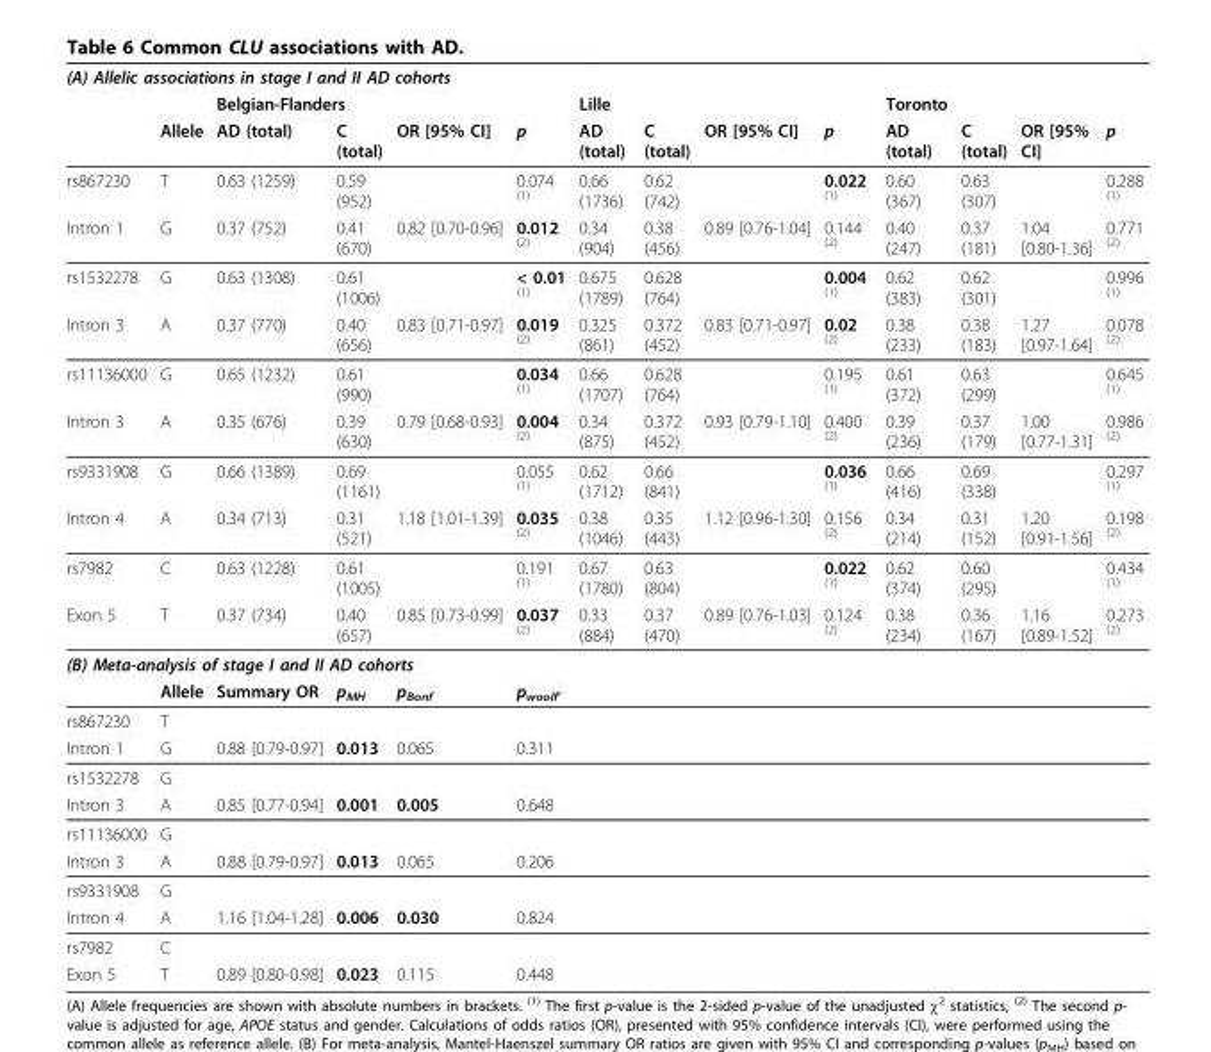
<table><thead><tr><td colspan="5">(A) Allelic associations in stage I and II AD cohorts</td><td rowspan="3">p</td><td rowspan="3">Lille AD (total)</td><td rowspan="3">C (total)</td><td rowspan="3">OR [95% CI]</td><td rowspan="3">p</td><td rowspan="3">Toronto AD (total)</td><td rowspan="3">C (total)</td><td rowspan="3">OR [95% CI]</td><td rowspan="3">p</td></tr><tr><td rowspan="2"></td><td rowspan="2">Allele</td><td colspan="2">Belgian-Flanders</td><td rowspan="2">OR [95% CI]</td></tr><tr><td>AD (total)</td><td>C (total)</td></tr></thead><tbody><tr><td>rs867230</td><td>T</td><td>0.63 (1259)</td><td>0.59 (952)</td><td></td><td>0.074 <sup>(1)</sup></td><td>0.66 (1736)</td><td>0.62 (742)</td><td></td><td>0.022 <sup>(1)</sup></td><td>0.60 (367)</td><td>0.63 (307)</td><td></td><td>0.288 <sup>(1)</sup></td></tr><tr><td>Intron 1</td><td>G</td><td>0.37 (752)</td><td>0.41 (670)</td><td>0.82 [0.70-0.96]</td><td>0.012 <sup>(2)</sup></td><td>0.34 (904)</td><td>0.38 (456)</td><td>0.89 [0.76-1.04]</td><td>0.144 <sup>(2)</sup></td><td>0.40 (247)</td><td>0.37 (181)</td><td>1.04 [0.80-1.36]</td><td>0.771 <sup>(2)</sup></td></tr><tr><td>rs1532278</td><td>G</td><td>0.63 (1308)</td><td>0.61 (1006)</td><td></td><td>&lt; 0.01 <sup>(1)</sup></td><td>0.675 (1789)</td><td>0.628 (764)</td><td></td><td>0.004 <sup>(1)</sup></td><td>0.62 (383)</td><td>0.62 (301)</td><td></td><td>0.996 <sup>(1)</sup></td></tr><tr><td>Intron 3</td><td>A</td><td>0.37 (770)</td><td>0.40 (656)</td><td>0.83 [0.71-0.97]</td><td>0.019 <sup>(2)</sup></td><td>0.325 (861)</td><td>0.372 (452)</td><td>0.83 [0.71-0.97]</td><td>0.02 <sup>(2)</sup></td><td>0.38 (233)</td><td>0.38 (183)</td><td>1.27 [0.97-1.64]</td><td>0.078 <sup>(2)</sup></td></tr><tr><td>rs11136000</td><td>G</td><td>0.65 (1232)</td><td>0.61 (990)</td><td></td><td>0.034 <sup>(1)</sup></td><td>0.66 (1707)</td><td>0.628 (764)</td><td></td><td>0.195 <sup>(1)</sup></td><td>0.61 (372)</td><td>0.63 (299)</td><td></td><td>0.645 <sup>(1)</sup></td></tr><tr><td>Intron 3</td><td>A</td><td>0.35 (676)</td><td>0.39 (630)</td><td>0.79 [0.68-0.93]</td><td>0.004 <sup>(2)</sup></td><td>0.34 (875)</td><td>0.372 (452)</td><td>0.93 [0.79-1.10]</td><td>0.400 <sup>(2)</sup></td><td>0.39 (236)</td><td>0.37 (179)</td><td>1.00 [0.77-1.31]</td><td>0.986 <sup>(2)</sup></td></tr><tr><td>rs9331908</td><td>G</td><td>0.66 (1389)</td><td>0.69 (1161)</td><td></td><td>0.055 <sup>(1)</sup></td><td>0.62 (1712)</td><td>0.66 (841)</td><td></td><td>0.036 <sup>(1)</sup></td><td>0.66 (416)</td><td>0.69 (338)</td><td></td><td>0.297 <sup>(1)</sup></td></tr><tr><td>Intron 4</td><td>A</td><td>0.34 (713)</td><td>0.31 (521)</td><td>1.18 [1.01-1.39]</td><td>0.035 <sup>(2)</sup></td><td>0.38 (1046)</td><td>0.35 (443)</td><td>1.12 [0.96-1.30]</td><td>0.156 <sup>(2)</sup></td><td>0.34 (214)</td><td>0.31 (152)</td><td>1.20 [0.91-1.56]</td><td>0.198 <sup>(2)</sup></td></tr><tr><td>rs7982</td><td>C</td><td>0.63 (1228)</td><td>0.61 (1005)</td><td></td><td>0.191 <sup>(1)</sup></td><td>0.67 (1780)</td><td>0.63 (804)</td><td></td><td>0.022 <sup>(1)</sup></td><td>0.62 (374)</td><td>0.60 (295)</td><td></td><td>0.434 <sup>(1)</sup></td></tr><tr><td>Exon 5</td><td>T</td><td>0.37 (734)</td><td>0.40 (657)</td><td>0.85 [0.73-0.99]</td><td>0.037 <sup>(2)</sup></td><td>0.33 (884)</td><td>0.37 (470)</td><td>0.89 [0.76-1.03]</td><td>0.124 <sup>(2)</sup></td><td>0.38 (234)</td><td>0.36 (167)</td><td>1.16 [0.89-1.52]</td><td>0.273 <sup>(2)</sup></td></tr><tr><td colspan="14">(B) Meta-analysis of stage I and II AD cohorts</td></tr><tr><td></td><td>Allele</td><td>Summary OR</td><td>p<sub>MH</sub></td><td>p<sub>Bonf</sub></td><td>p<sub>woolf’</sub></td><td></td><td></td><td></td><td></td><td></td><td></td><td></td><td></td></tr><tr><td>rs867230</td><td>T</td><td></td><td></td><td></td><td></td><td></td><td></td><td></td><td></td><td></td><td></td><td></td><td></td></tr><tr><td>Intron 1</td><td>G</td><td>0.88 [0.79-0.97]</td><td>0.013</td><td>0.065</td><td>0.311</td><td></td><td></td><td></td><td></td><td></td><td></td><td></td><td></td></tr><tr><td>rs1532278</td><td>G</td><td></td><td></td><td></td><td></td><td></td><td></td><td></td><td></td><td></td><td></td><td></td><td></td></tr><tr><td>Intron 3</td><td>A</td><td>0.85 [0.77-0.94]</td><td>0.001</td><td>0.005</td><td>0.648</td><td></td><td></td><td></td><td></td><td></td><td></td><td></td><td></td></tr><tr><td>rs11136000</td><td>G</td><td></td><td></td><td></td><td></td><td></td><td></td><td></td><td></td><td></td><td></td><td></td><td></td></tr><tr><td>Intron 3</td><td>A</td><td>0.88 [0.79-0.97]</td><td>0.013</td><td>0.065</td><td>0.206</td><td></td><td></td><td></td><td></td><td></td><td></td><td></td><td></td></tr><tr><td>rs9331908</td><td>G</td><td></td><td></td><td></td><td></td><td></td><td></td><td></td><td></td><td></td><td></td><td></td><td></td></tr><tr><td>Intron 4</td><td>A</td><td>1.16 [1.04-1.28]</td><td>0.006</td><td>0.030</td><td>0.824</td><td></td><td></td><td></td><td></td><td></td><td></td><td></td><td></td></tr><tr><td>rs7982</td><td>C</td><td></td><td></td><td></td><td></td><td></td><td></td><td></td><td></td><td></td><td></td><td></td><td></td></tr><tr><td>Exon 5</td><td>T</td><td>0.89 [0.80-0.98]</td><td>0.023</td><td>0.115</td><td>0.448</td><td></td><td></td><td></td><td></td><td></td><td></td><td></td><td></td></tr></tbody></table>